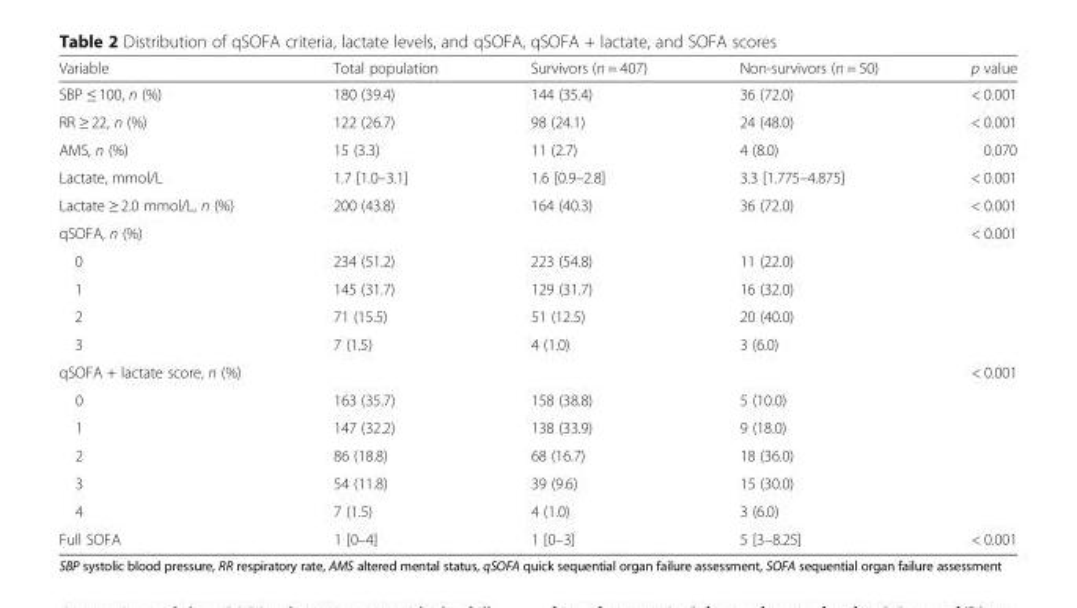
<table><thead><tr><td>Variable</td><td>Total population</td><td>Survivors (n = 407)</td><td>Non-survivors (n = 50)</td><td>p value</td></tr></thead><tbody><tr><td>SBP ≤ 100, n (%)</td><td>180 (39.4)</td><td>144 (35.4)</td><td>36 (72.0)</td><td>&lt; 0.001</td></tr><tr><td>RR ≥ 22, n (%)</td><td>122 (26.7)</td><td>98 (24.1)</td><td>24 (48.0)</td><td>&lt; 0.001</td></tr><tr><td>AMS, n (%)</td><td>15 (3.3)</td><td>11 (2.7)</td><td>4 (8.0)</td><td>0.070</td></tr><tr><td>Lactate, mmol/L</td><td>1.7 [1.0–3.1]</td><td>1.6 [0.9–2.8]</td><td>3.3 [1.775–4.875]</td><td>&lt; 0.001</td></tr><tr><td>Lactate ≥ 2.0 mmol/L, n (%)</td><td>200 (43.8)</td><td>164 (40.3)</td><td>36 (72.0)</td><td>&lt; 0.001</td></tr><tr><td>qSOFA, n (%)</td><td></td><td></td><td></td><td>&lt; 0.001</td></tr><tr><td>0</td><td>234 (51.2)</td><td>223 (54.8)</td><td>11 (22.0)</td><td></td></tr><tr><td>1</td><td>145 (31.7)</td><td>129 (31.7)</td><td>16 (32.0)</td><td></td></tr><tr><td>2</td><td>71 (15.5)</td><td>51 (12.5)</td><td>20 (40.0)</td><td></td></tr><tr><td>3</td><td>7 (1.5)</td><td>4 (1.0)</td><td>3 (6.0)</td><td></td></tr><tr><td>qSOFA + lactate score, n (%)</td><td></td><td></td><td></td><td>&lt; 0.001</td></tr><tr><td>0</td><td>163 (35.7)</td><td>158 (38.8)</td><td>5 (10.0)</td><td></td></tr><tr><td>1</td><td>147 (32.2)</td><td>138 (33.9)</td><td>9 (18.0)</td><td></td></tr><tr><td>2</td><td>86 (18.8)</td><td>68 (16.7)</td><td>18 (36.0)</td><td></td></tr><tr><td>3</td><td>54 (11.8)</td><td>39 (9.6)</td><td>15 (30.0)</td><td></td></tr><tr><td>4</td><td>7 (1.5)</td><td>4 (1.0)</td><td>3 (6.0)</td><td></td></tr><tr><td>Full SOFA</td><td>1 [0–4]</td><td>1 [0–3]</td><td>5 [3–8.25]</td><td>&lt; 0.001</td></tr></tbody></table>